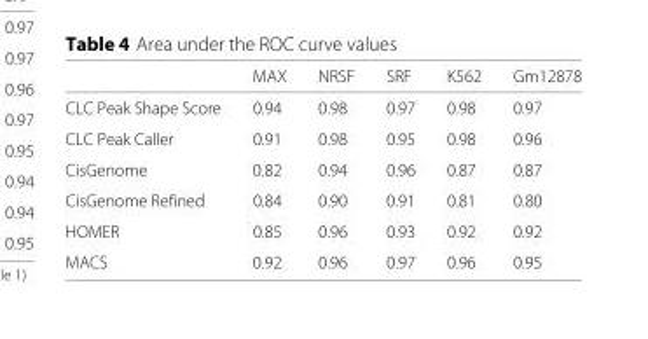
<table><thead><tr><td></td><td>MAX</td><td>NRSF</td><td>SRF</td><td>K562</td><td>Gm12878</td></tr></thead><tbody><tr><td>CLC Peak Shape Score</td><td>0.94</td><td>0.98</td><td>0.97</td><td>0.98</td><td>0.97</td></tr><tr><td>CLC Peak Caller</td><td>0.91</td><td>0.98</td><td>0.95</td><td>0.98</td><td>0.96</td></tr><tr><td>CisGenome</td><td>0.82</td><td>0.94</td><td>0.96</td><td>0.87</td><td>0.87</td></tr><tr><td>CisGenome Refined</td><td>0.84</td><td>0.90</td><td>0.91</td><td>0.81</td><td>0.80</td></tr><tr><td>HOMER</td><td>0.85</td><td>0.96</td><td>0.93</td><td>0.92</td><td>0.92</td></tr><tr><td>MACS</td><td>0.92</td><td>0.96</td><td>0.97</td><td>0.96</td><td>0.95</td></tr></tbody></table>